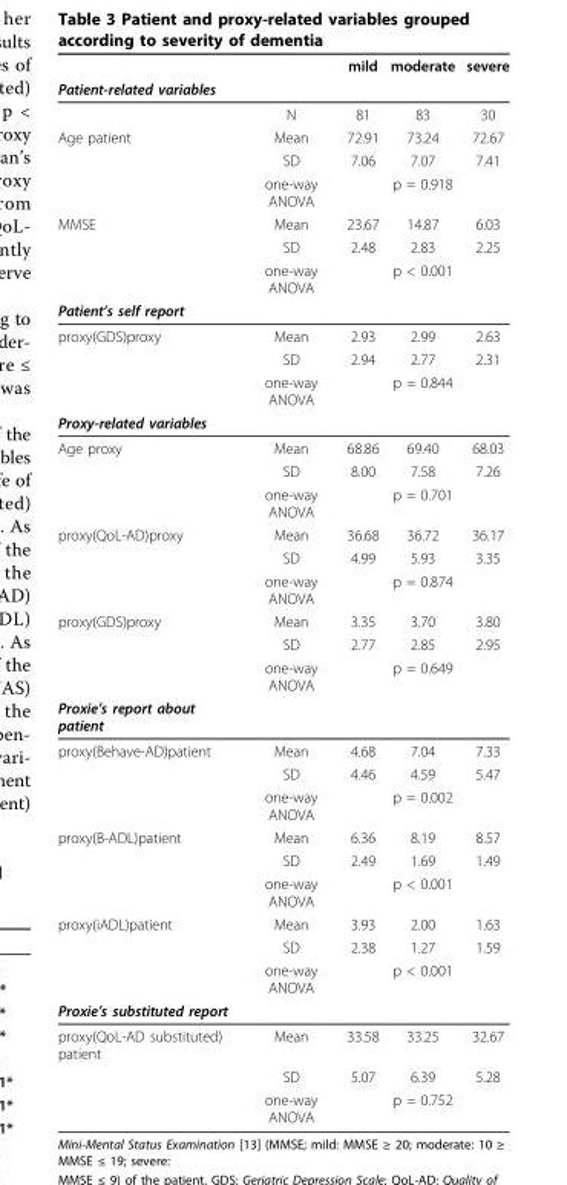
<table><thead><tr><td rowspan="2">Patient-related variables</td><td rowspan="2"></td><td rowspan="2">mild</td><td rowspan="2">moderate</td><td rowspan="2">severe</td></tr><tr></tr></thead><tbody><tr><td></td><td>N</td><td>81</td><td>83</td><td>30</td></tr><tr><td rowspan="3">Age patient</td><td>Mean</td><td>72.91</td><td>73.24</td><td>72.67</td></tr><tr><td>SD</td><td>7.06</td><td>7.07</td><td>7.41</td></tr><tr><td>one-way ANOVA</td><td></td><td>p = 0.918</td><td></td></tr><tr><td rowspan="3">MMSE</td><td>Mean</td><td>23.67</td><td>14.87</td><td>6.03</td></tr><tr><td>SD</td><td>2.48</td><td>2.83</td><td>2.25</td></tr><tr><td>one-way ANOVA</td><td></td><td>p &lt; 0.001</td><td></td></tr><tr><td colspan="5">Patient’s self report</td></tr><tr><td rowspan="3">proxy(GDS)proxy</td><td>Mean</td><td>2.93</td><td>2.99</td><td>2.63</td></tr><tr><td>SD</td><td>2.94</td><td>2.77</td><td>2.31</td></tr><tr><td>one-way ANOVA</td><td></td><td>p = 0.844</td><td></td></tr><tr><td colspan="5">Proxy-related variables</td></tr><tr><td rowspan="3">Age proxy</td><td>Mean</td><td>68.86</td><td>69.40</td><td>68.03</td></tr><tr><td>SD</td><td>8.00</td><td>7.58</td><td>7.26</td></tr><tr><td>one-way ANOVA</td><td></td><td>p = 0.701</td><td></td></tr><tr><td rowspan="3">proxy(QoL-AD)proxy</td><td>Mean</td><td>36.68</td><td>36.72</td><td>36.17</td></tr><tr><td>SD</td><td>4.99</td><td>5.93</td><td>3.35</td></tr><tr><td>one-way ANOVA</td><td></td><td>p = 0.874</td><td></td></tr><tr><td rowspan="3">proxy(GDS)proxy</td><td>Mean</td><td>3.35</td><td>3.70</td><td>3.80</td></tr><tr><td>SD</td><td>2.77</td><td>2.85</td><td>2.95</td></tr><tr><td>one-way ANOVA</td><td></td><td>p = 0.649</td><td></td></tr><tr><td colspan="5">Proxie’s report about patient</td></tr><tr><td rowspan="3">proxy(Behave-AD)patient</td><td>Mean</td><td>4.68</td><td>7.04</td><td>7.33</td></tr><tr><td>SD</td><td>4.46</td><td>4.59</td><td>5.47</td></tr><tr><td>one-way ANOVA</td><td></td><td>p = 0.002</td><td></td></tr><tr><td rowspan="3">proxy(B-ADL)patient</td><td>Mean</td><td>6.36</td><td>8.19</td><td>8.57</td></tr><tr><td>SD</td><td>2.49</td><td>1.69</td><td>1.49</td></tr><tr><td>one-way ANOVA</td><td></td><td>p &lt; 0.001</td><td></td></tr><tr><td rowspan="3">proxy(iADL)patient</td><td>Mean</td><td>3.93</td><td>2.00</td><td>1.63</td></tr><tr><td>SD</td><td>2.38</td><td>1.27</td><td>1.59</td></tr><tr><td>one-way ANOVA</td><td></td><td>p &lt; 0.001</td><td></td></tr><tr><td colspan="5">Proxie’s substituted report</td></tr><tr><td rowspan="3">proxy(QoL-AD substituted) patient</td><td>Mean</td><td>33.58</td><td>33.25</td><td>32.67</td></tr><tr><td>SD</td><td>5.07</td><td>6.39</td><td>5.28</td></tr><tr><td>one-way ANOVA</td><td></td><td>p = 0.752</td><td></td></tr></tbody></table>